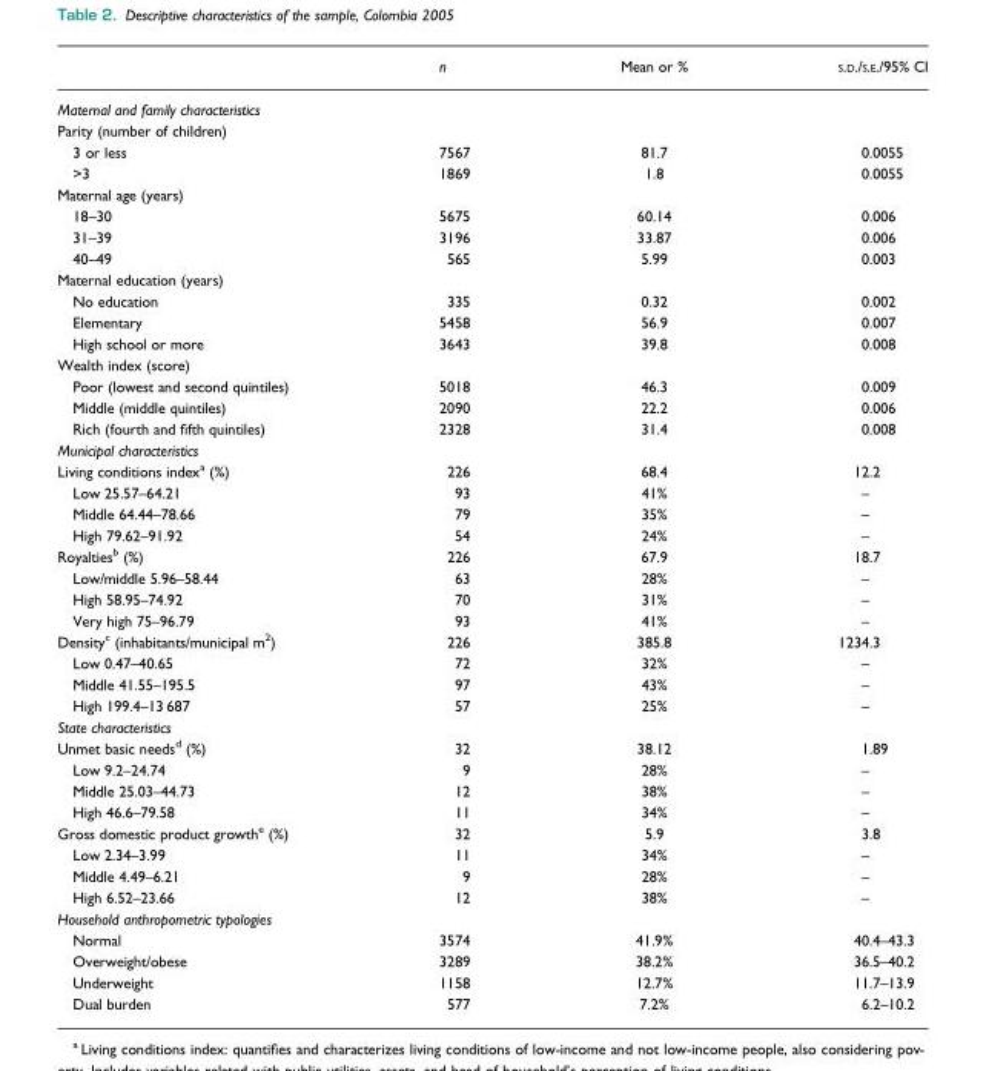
<table><thead><tr><td></td><td>n</td><td>Mean or %</td><td>S.D./S.E./95% CI</td></tr></thead><tbody><tr><td colspan="4">Maternal and family characteristics</td></tr><tr><td colspan="4">Parity (number of children)</td></tr><tr><td>3 or less</td><td>7567</td><td>81.7</td><td>0.0055</td></tr><tr><td>&gt;3</td><td>1869</td><td>1.8</td><td>0.0055</td></tr><tr><td colspan="4">Maternal age (years)</td></tr><tr><td>18–30</td><td>5675</td><td>60.14</td><td>0.006</td></tr><tr><td>31–39</td><td>3196</td><td>33.87</td><td>0.006</td></tr><tr><td>40–49</td><td>565</td><td>5.99</td><td>0.003</td></tr><tr><td colspan="4">Maternal education (years)</td></tr><tr><td>No education</td><td>335</td><td>0.32</td><td>0.002</td></tr><tr><td>Elementary</td><td>5458</td><td>56.9</td><td>0.007</td></tr><tr><td>High school or more</td><td>3643</td><td>39.8</td><td>0.008</td></tr><tr><td colspan="4">Wealth index (score)</td></tr><tr><td>Poor (lowest and second quintiles)</td><td>5018</td><td>46.3</td><td>0.009</td></tr><tr><td>Middle (middle quintiles)</td><td>2090</td><td>22.2</td><td>0.006</td></tr><tr><td>Rich (fourth and fifth quintiles)</td><td>2328</td><td>31.4</td><td>0.008</td></tr><tr><td colspan="4">Municipal characteristics</td></tr><tr><td>Living conditions index<sup>a</sup> (%)</td><td>226</td><td>68.4</td><td>12.2</td></tr><tr><td>Low 25.57–64.21</td><td>93</td><td>41%</td><td>–</td></tr><tr><td>Middle 64.44–78.66</td><td>79</td><td>35%</td><td>–</td></tr><tr><td>High 79.62–91.92</td><td>54</td><td>24%</td><td>–</td></tr><tr><td>Royalties<sup>b</sup> (%)</td><td>226</td><td>67.9</td><td>18.7</td></tr><tr><td>Low/middle 5.96–58.44</td><td>63</td><td>28%</td><td>–</td></tr><tr><td>High 58.95–74.92</td><td>70</td><td>31%</td><td>–</td></tr><tr><td>Very high 75–96.79</td><td>93</td><td>41%</td><td>–</td></tr><tr><td>Density<sup>c</sup> (inhabitants/municipal m<sup>2</sup>)</td><td>226</td><td>385.8</td><td>1234.3</td></tr><tr><td>Low 0.47–40.65</td><td>72</td><td>32%</td><td>–</td></tr><tr><td>Middle 41.55–195.5</td><td>97</td><td>43%</td><td>–</td></tr><tr><td>High 199.4–13 687</td><td>57</td><td>25%</td><td>–</td></tr><tr><td colspan="4">State characteristics</td></tr><tr><td>Unmet basic needs<sup>d</sup> (%)</td><td>32</td><td>38.12</td><td>1.89</td></tr><tr><td>Low 9.2–24.74</td><td>9</td><td>28%</td><td>–</td></tr><tr><td>Middle 25.03–44.73</td><td>12</td><td>38%</td><td>–</td></tr><tr><td>High 46.6–79.58</td><td>11</td><td>34%</td><td>–</td></tr><tr><td>Gross domestic product growth<sup>e</sup> (%)</td><td>32</td><td>5.9</td><td>3.8</td></tr><tr><td>Low 2.34–3.99</td><td>11</td><td>34%</td><td>–</td></tr><tr><td>Middle 4.49–6.21</td><td>9</td><td>28%</td><td>–</td></tr><tr><td>High 6.52–23.66</td><td>12</td><td>38%</td><td>–</td></tr><tr><td colspan="4">Household anthropometric typologies</td></tr><tr><td>Normal</td><td>3574</td><td>41.9%</td><td>40.4–43.3</td></tr><tr><td>Overweight/obese</td><td>3289</td><td>38.2%</td><td>36.5–40.2</td></tr><tr><td>Underweight</td><td>1158</td><td>12.7%</td><td>11.7–13.9</td></tr><tr><td>Dual burden</td><td>577</td><td>7.2%</td><td>6.2–10.2</td></tr></tbody></table>